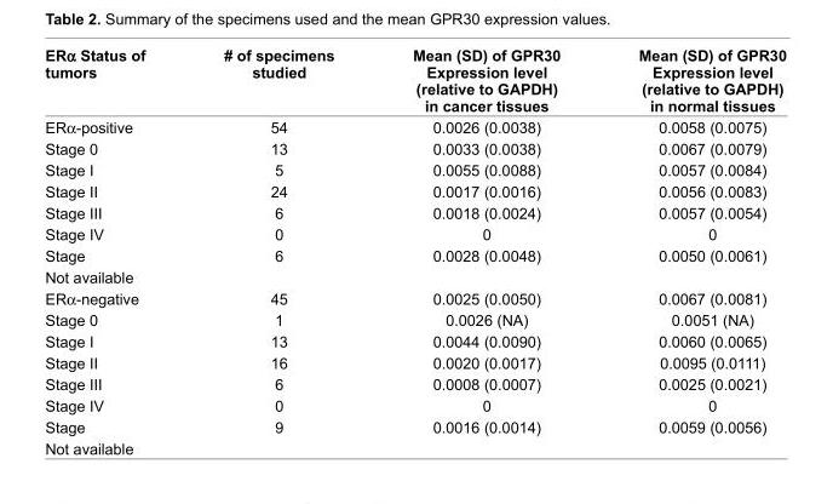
<table><thead><tr><td>ERα Status of tumors</td><td># of specimens studied</td><td>Mean (SD) of GPR30 Expression level (relative to GAPDH) in cancer tissues</td><td>Mean (SD) of GPR30 Expression level (relative to GAPDH) in normal tissues</td></tr></thead><tbody><tr><td>ERα-positive</td><td>54</td><td>0.0026 (0.0038)</td><td>0.0058 (0.0075)</td></tr><tr><td>Stage 0</td><td>13</td><td>0.0033 (0.0038)</td><td>0.0067 (0.0079)</td></tr><tr><td>Stage I</td><td>5</td><td>0.0055 (0.0088)</td><td>0.0057 (0.0084)</td></tr><tr><td>Stage II</td><td>24</td><td>0.0017 (0.0016)</td><td>0.0056 (0.0083)</td></tr><tr><td>Stage III</td><td>6</td><td>0.0018 (0.0024)</td><td>0.0057 (0.0054)</td></tr><tr><td>Stage IV</td><td>0</td><td>0</td><td>0</td></tr><tr><td>Stage</td><td>6</td><td>0.0028 (0.0048)</td><td>0.0050 (0.0061)</td></tr><tr><td colspan="4">Not available</td></tr><tr><td>ERα-negative</td><td>45</td><td>0.0025 (0.0050)</td><td>0.0067 (0.0081)</td></tr><tr><td>Stage 0</td><td>1</td><td>0.0026 (NA)</td><td>0.0051 (NA)</td></tr><tr><td>Stage I</td><td>13</td><td>0.0044 (0.0090)</td><td>0.0060 (0.0065)</td></tr><tr><td>Stage II</td><td>16</td><td>0.0020 (0.0017)</td><td>0.0095 (0.0111)</td></tr><tr><td>Stage III</td><td>6</td><td>0.0008 (0.0007)</td><td>0.0025 (0.0021)</td></tr><tr><td>Stage IV</td><td>0</td><td>0</td><td>0</td></tr><tr><td>Stage</td><td>9</td><td>0.0016 (0.0014)</td><td>0.0059 (0.0056)</td></tr><tr><td>Not available</td><td></td><td></td><td></td></tr></tbody></table>